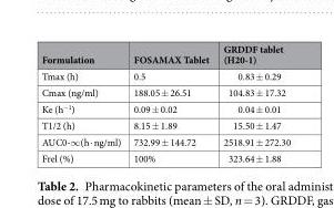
<table><thead><tr><td>Formulation</td><td>FOSAMAX Tablet</td><td>GRDDF tablet (H20-1)</td></tr></thead><tbody><tr><td>Tmax (h)</td><td>0.5</td><td>0.83 ± 0.29</td></tr><tr><td>Cmax (ng/ml)</td><td>188.05 ± 26.51</td><td>104.83 ± 17.32</td></tr><tr><td>Ke (h<sup>−1</sup>)</td><td>0.09 ± 0.02</td><td>0.04 ± 0.01</td></tr><tr><td>T1/2 (h)</td><td>8.15 ± 1.89</td><td>15.50 ± 1.47</td></tr><tr><td>AUC0-∞(h · ng/ml)</td><td>732.99 ± 144.72</td><td>2518.91 ± 272.30</td></tr><tr><td>Frel (%)</td><td>100%</td><td>323.64 ± 1.88</td></tr></tbody></table>